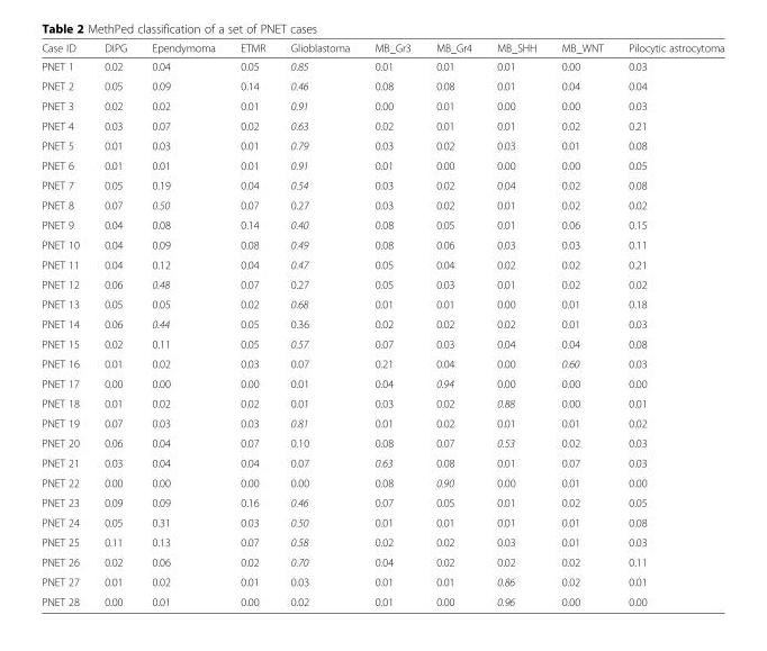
<table><thead><tr><td>Case ID</td><td>DIPG</td><td>Ependymoma</td><td>ETMR</td><td>Glioblastoma</td><td>MB_Gr3</td><td>MB_Gr4</td><td>MB_SHH</td><td>MB_WNT</td><td>Pilocytic astrocytoma</td></tr></thead><tbody><tr><td>PNET 1</td><td>0.02</td><td>0.04</td><td>0.05</td><td>0.85</td><td>0.01</td><td>0.01</td><td>0.01</td><td>0.00</td><td>0.03</td></tr><tr><td>PNET 2</td><td>0.05</td><td>0.09</td><td>0.14</td><td>0.46</td><td>0.08</td><td>0.08</td><td>0.01</td><td>0.04</td><td>0.04</td></tr><tr><td>PNET 3</td><td>0.02</td><td>0.02</td><td>0.01</td><td>0.91</td><td>0.00</td><td>0.01</td><td>0.00</td><td>0.00</td><td>0.03</td></tr><tr><td>PNET 4</td><td>0.03</td><td>0.07</td><td>0.02</td><td>0.63</td><td>0.02</td><td>0.01</td><td>0.01</td><td>0.02</td><td>0.21</td></tr><tr><td>PNET 5</td><td>0.01</td><td>0.03</td><td>0.01</td><td>0.79</td><td>0.03</td><td>0.02</td><td>0.03</td><td>0.01</td><td>0.08</td></tr><tr><td>PNET 6</td><td>0.01</td><td>0.01</td><td>0.01</td><td>0.91</td><td>0.01</td><td>0.00</td><td>0.00</td><td>0.00</td><td>0.05</td></tr><tr><td>PNET 7</td><td>0.05</td><td>0.19</td><td>0.04</td><td>0.54</td><td>0.03</td><td>0.02</td><td>0.04</td><td>0.02</td><td>0.08</td></tr><tr><td>PNET 8</td><td>0.07</td><td>0.50</td><td>0.07</td><td>0.27</td><td>0.03</td><td>0.02</td><td>0.01</td><td>0.02</td><td>0.02</td></tr><tr><td>PNET 9</td><td>0.04</td><td>0.08</td><td>0.14</td><td>0.40</td><td>0.08</td><td>0.05</td><td>0.01</td><td>0.06</td><td>0.15</td></tr><tr><td>PNET 10</td><td>0.04</td><td>0.09</td><td>0.08</td><td>0.49</td><td>0.08</td><td>0.06</td><td>0.03</td><td>0.03</td><td>0.11</td></tr><tr><td>PNET 11</td><td>0.04</td><td>0.12</td><td>0.04</td><td>0.47</td><td>0.05</td><td>0.04</td><td>0.02</td><td>0.02</td><td>0.21</td></tr><tr><td>PNET 12</td><td>0.06</td><td>0.48</td><td>0.07</td><td>0.27</td><td>0.05</td><td>0.03</td><td>0.01</td><td>0.02</td><td>0.02</td></tr><tr><td>PNET 13</td><td>0.05</td><td>0.05</td><td>0.02</td><td>0.68</td><td>0.01</td><td>0.01</td><td>0.00</td><td>0.01</td><td>0.18</td></tr><tr><td>PNET 14</td><td>0.06</td><td>0.44</td><td>0.05</td><td>0.36</td><td>0.02</td><td>0.02</td><td>0.02</td><td>0.01</td><td>0.03</td></tr><tr><td>PNET 15</td><td>0.02</td><td>0.11</td><td>0.05</td><td>0.57</td><td>0.07</td><td>0.03</td><td>0.04</td><td>0.04</td><td>0.08</td></tr><tr><td>PNET 16</td><td>0.01</td><td>0.02</td><td>0.03</td><td>0.07</td><td>0.21</td><td>0.04</td><td>0.00</td><td>0.60</td><td>0.03</td></tr><tr><td>PNET 17</td><td>0.00</td><td>0.00</td><td>0.00</td><td>0.01</td><td>0.04</td><td>0.94</td><td>0.00</td><td>0.00</td><td>0.00</td></tr><tr><td>PNET 18</td><td>0.01</td><td>0.02</td><td>0.02</td><td>0.01</td><td>0.03</td><td>0.02</td><td>0.88</td><td>0.00</td><td>0.01</td></tr><tr><td>PNET 19</td><td>0.07</td><td>0.03</td><td>0.03</td><td>0.81</td><td>0.01</td><td>0.02</td><td>0.01</td><td>0.01</td><td>0.02</td></tr><tr><td>PNET 20</td><td>0.06</td><td>0.04</td><td>0.07</td><td>0.10</td><td>0.08</td><td>0.07</td><td>0.53</td><td>0.02</td><td>0.03</td></tr><tr><td>PNET 21</td><td>0.03</td><td>0.04</td><td>0.04</td><td>0.07</td><td>0.63</td><td>0.08</td><td>0.01</td><td>0.07</td><td>0.03</td></tr><tr><td>PNET 22</td><td>0.00</td><td>0.00</td><td>0.00</td><td>0.00</td><td>0.08</td><td>0.90</td><td>0.00</td><td>0.01</td><td>0.00</td></tr><tr><td>PNET 23</td><td>0.09</td><td>0.09</td><td>0.16</td><td>0.46</td><td>0.07</td><td>0.05</td><td>0.01</td><td>0.02</td><td>0.05</td></tr><tr><td>PNET 24</td><td>0.05</td><td>0.31</td><td>0.03</td><td>0.50</td><td>0.01</td><td>0.01</td><td>0.01</td><td>0.01</td><td>0.08</td></tr><tr><td>PNET 25</td><td>0.11</td><td>0.13</td><td>0.07</td><td>0.58</td><td>0.02</td><td>0.02</td><td>0.03</td><td>0.01</td><td>0.03</td></tr><tr><td>PNET 26</td><td>0.02</td><td>0.06</td><td>0.02</td><td>0.70</td><td>0.04</td><td>0.02</td><td>0.02</td><td>0.02</td><td>0.11</td></tr><tr><td>PNET 27</td><td>0.01</td><td>0.02</td><td>0.01</td><td>0.03</td><td>0.01</td><td>0.01</td><td>0.86</td><td>0.02</td><td>0.01</td></tr><tr><td>PNET 28</td><td>0.00</td><td>0.01</td><td>0.00</td><td>0.02</td><td>0.01</td><td>0.00</td><td>0.96</td><td>0.00</td><td>0.00</td></tr></tbody></table>